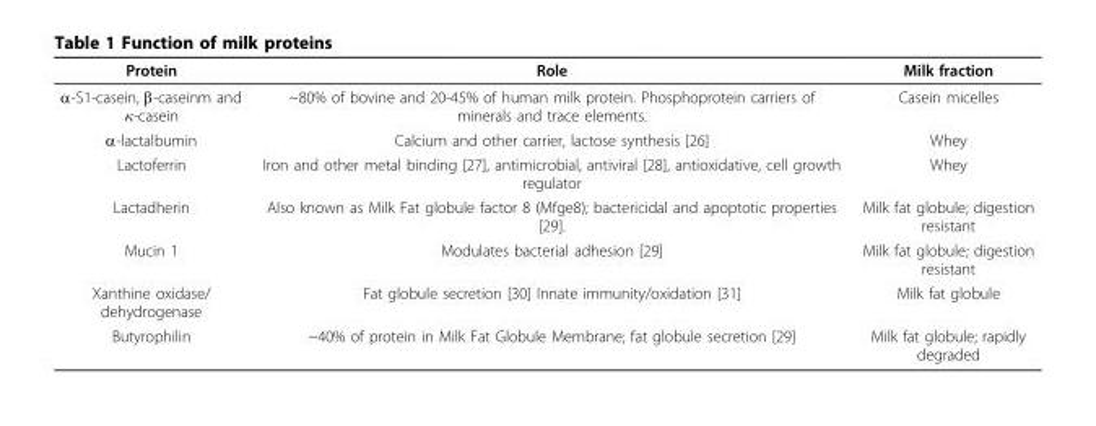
<table><thead><tr><td>Protein</td><td>Role</td><td>Milk fraction</td></tr></thead><tbody><tr><td>α-S1-casein, β-caseinm and κ-casein</td><td>~80% of bovine and 20-45% of human milk protein. Phosphoprotein carriers of minerals and trace elements.</td><td>Casein micelles</td></tr><tr><td>α-lactalbumin</td><td>Calcium and other carrier, lactose synthesis [26]</td><td>Whey</td></tr><tr><td>Lactoferrin</td><td>Iron and other metal binding [27], antimicrobial, antiviral [28], antioxidative, cell growth regulator</td><td>Whey</td></tr><tr><td>Lactadherin</td><td>Also known as Milk Fat globule factor 8 (Mfge8); bactericidal and apoptotic properties [29].</td><td>Milk fat globule; digestion resistant</td></tr><tr><td>Mucin 1</td><td>Modulates bacterial adhesion [29]</td><td>Milk fat globule; digestion resistant</td></tr><tr><td>Xanthine oxidase/ dehydrogenase</td><td>Fat globule secretion [30] Innate immunity/oxidation [31]</td><td>Milk fat globule</td></tr><tr><td>Butyrophilin</td><td>~40% of protein in Milk Fat Globule Membrane; fat globule secretion [29]</td><td>Milk fat globule; rapidly degraded</td></tr></tbody></table>